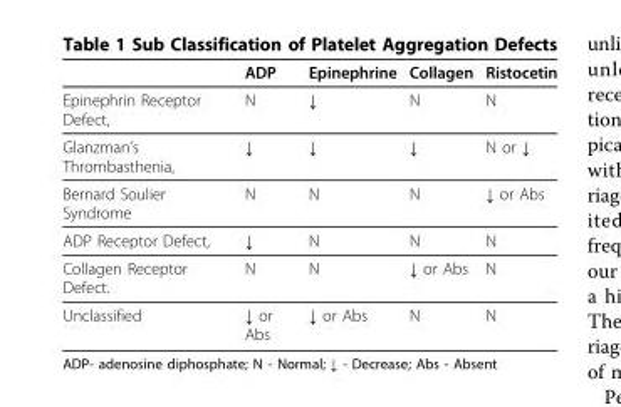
<table><thead><tr><td></td><td>ADP</td><td>Epinephrine</td><td>Collagen</td><td>Ristocetin</td></tr></thead><tbody><tr><td>Epinephrin Receptor Defect,</td><td>N</td><td>↓</td><td>N</td><td>N</td></tr><tr><td>Glanzman’s Thrombasthenia,</td><td>↓</td><td>↓</td><td>↓</td><td>N or ↓</td></tr><tr><td>Bernard Soulier Syndrome</td><td>N</td><td>N</td><td>N</td><td>↓ or Abs</td></tr><tr><td>ADP Receptor Defect,</td><td>↓</td><td>N</td><td>N</td><td>N</td></tr><tr><td>Collagen Receptor Defect.</td><td>N</td><td>N</td><td>↓ or Abs</td><td>N</td></tr><tr><td>Unclassified</td><td>↓ or Abs</td><td>↓ or Abs</td><td>N</td><td>N</td></tr></tbody></table>